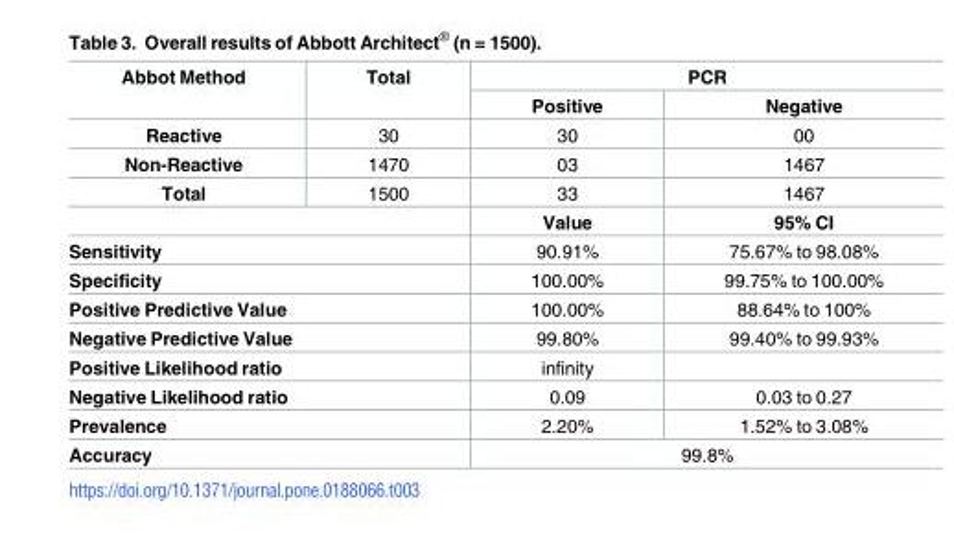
<table><thead><tr><td rowspan="2">Abbot Method</td><td rowspan="2">Total</td><td colspan="2">PCR</td></tr><tr><td>Positive</td><td>Negative</td></tr></thead><tbody><tr><td>Reactive</td><td>30</td><td>30</td><td>00</td></tr><tr><td>Non-Reactive</td><td>1470</td><td>03</td><td>1467</td></tr><tr><td>Total</td><td>1500</td><td>33</td><td>1467</td></tr><tr><td colspan="2"></td><td>Value</td><td>95% CI</td></tr><tr><td colspan="2">Sensitivity</td><td>90.91%</td><td>75.67% to 98.08%</td></tr><tr><td colspan="2">Specificity</td><td>100.00%</td><td>99.75% to 100.00%</td></tr><tr><td colspan="2">Positive Predictive Value</td><td>100.00%</td><td>88.64% to 100%</td></tr><tr><td colspan="2">Negative Predictive Value</td><td>99.80%</td><td>99.40% to 99.93%</td></tr><tr><td colspan="2">Positive Likelihood ratio</td><td>infinity</td><td></td></tr><tr><td colspan="2">Negative Likelihood ratio</td><td>0.09</td><td>0.03 to 0.27</td></tr><tr><td colspan="2">Prevalence</td><td>2.20%</td><td>1.52% to 3.08%</td></tr><tr><td colspan="2">Accuracy</td><td colspan="2">99.8%</td></tr></tbody></table>